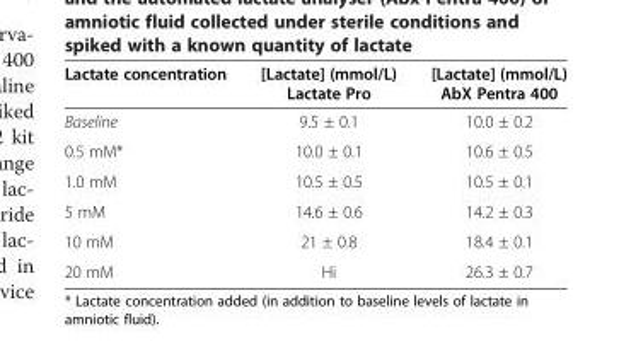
<table><thead><tr><td>Lactate concentration</td><td>[Lactate] (mmol/L) Lactate Pro</td><td>[Lactate] (mmol/L) AbX Pentra 400</td></tr></thead><tbody><tr><td>Baseline</td><td>9.5 ± 0.1</td><td>10.0 ± 0.2</td></tr><tr><td>0.5 mM*</td><td>10.0 ± 0.1</td><td>10.6 ± 0.5</td></tr><tr><td>1.0 mM</td><td>10.5 ± 0.5</td><td>10.5 ± 0.1</td></tr><tr><td>5 mM</td><td>14.6 ± 0.6</td><td>14.2 ± 0.3</td></tr><tr><td>10 mM</td><td>21 ± 0.8</td><td>18.4 ± 0.1</td></tr><tr><td>20 mM</td><td>Hi</td><td>26.3 ± 0.7</td></tr></tbody></table>